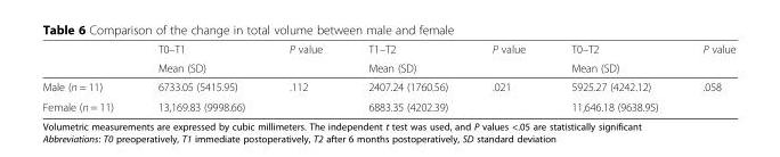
<table><thead><tr><td rowspan="2"></td><td rowspan="2">T0–T1 Mean (SD)</td><td rowspan="2">P value</td><td rowspan="2">T1–T2 Mean (SD)</td><td rowspan="2">P value</td><td rowspan="2">T0–T2 Mean (SD)</td><td rowspan="2">P value</td></tr><tr></tr></thead><tbody><tr><td>Male (n = 11)</td><td>6733.05 (5415.95)</td><td rowspan="2">.112</td><td>2407.24 (1760.56)</td><td rowspan="2">.021</td><td>5925.27 (4242.12)</td><td rowspan="2">.058</td></tr><tr><td>Female (n = 11)</td><td>13,169.83 (9998.66)</td><td>6883.35 (4202.39)</td><td>11,646.18 (9638.95)</td></tr></tbody></table>